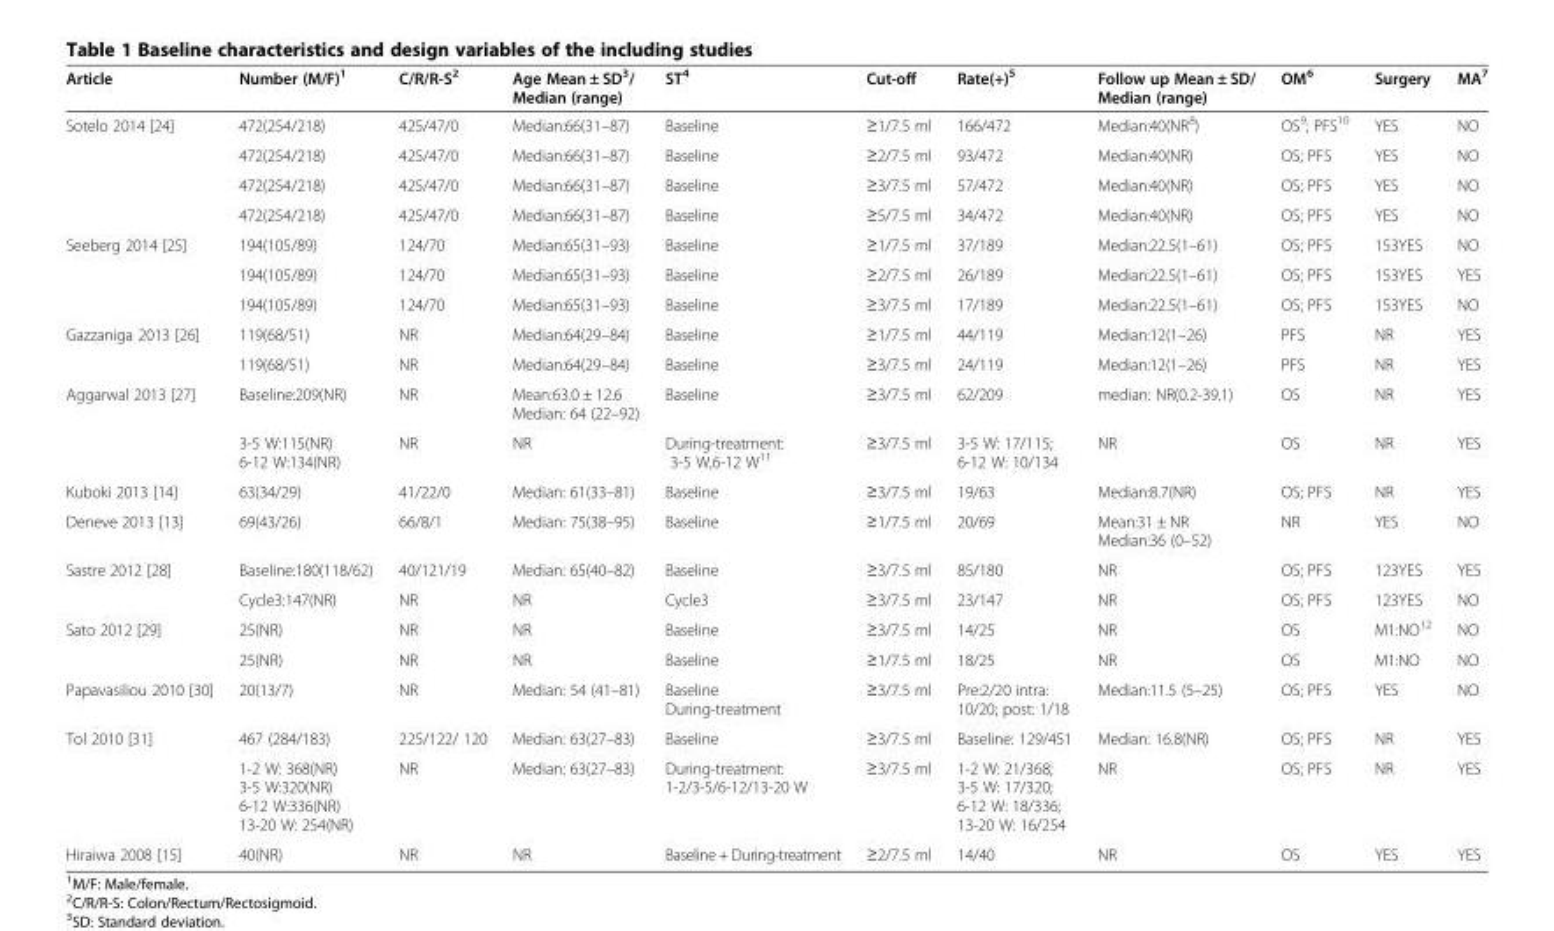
<table><thead><tr><td>Article</td><td>Number (M/F)<sup>1</sup></td><td>C/R/R-S<sup>2</sup></td><td>Age Mean ± SD<sup>3</sup>/ Median (range)</td><td>ST<sup>4</sup></td><td>Cut-off</td><td>Rate(+)<sup>5</sup></td><td>Follow up Mean ± SD/ Median (range)</td><td>OM<sup>6</sup></td><td>Surgery</td><td>MA<sup>7</sup></td></tr></thead><tbody><tr><td rowspan="4">Sotelo 2014 [24]</td><td>472(254/218)</td><td>425/47/0</td><td>Median:66(31–87)</td><td>Baseline</td><td>≥1/7.5 ml</td><td>166/472</td><td>Median:40(NR<sup>8</sup>)</td><td>OS<sup>9</sup>; PFS<sup>10</sup></td><td>YES</td><td>NO</td></tr><tr><td>472(254/218)</td><td>425/47/0</td><td>Median:66(31–87)</td><td>Baseline</td><td>≥2/7.5 ml</td><td>93/472</td><td>Median:40(NR)</td><td>OS; PFS</td><td>YES</td><td>NO</td></tr><tr><td>472(254/218)</td><td>425/47/0</td><td>Median:66(31–87)</td><td>Baseline</td><td>≥3/7.5 ml</td><td>57/472</td><td>Median:40(NR)</td><td>OS; PFS</td><td>YES</td><td>NO</td></tr><tr><td>472(254/218)</td><td>425/47/0</td><td>Median:66(31–87)</td><td>Baseline</td><td>≥5/7.5 ml</td><td>34/472</td><td>Median:40(NR)</td><td>OS; PFS</td><td>YES</td><td>NO</td></tr><tr><td rowspan="3">Seeberg 2014 [25]</td><td>194(105/89)</td><td>124/70</td><td>Median:65(31–93)</td><td>Baseline</td><td>≥1/7.5 ml</td><td>37/189</td><td>Median:22.5(1–61)</td><td>OS; PFS</td><td>153YES</td><td>NO</td></tr><tr><td>194(105/89)</td><td>124/70</td><td>Median:65(31–93)</td><td>Baseline</td><td>≥2/7.5 ml</td><td>26/189</td><td>Median:22.5(1–61)</td><td>OS; PFS</td><td>153YES</td><td>YES</td></tr><tr><td>194(105/89)</td><td>124/70</td><td>Median:65(31–93)</td><td>Baseline</td><td>≥3/7.5 ml</td><td>17/189</td><td>Median:22.5(1–61)</td><td>OS; PFS</td><td>153YES</td><td>NO</td></tr><tr><td rowspan="2">Gazzaniga 2013 [26]</td><td>119(68/51)</td><td>NR</td><td>Median:64(29–84)</td><td>Baseline</td><td>≥1/7.5 ml</td><td>44/119</td><td>Median:12(1–26)</td><td>PFS</td><td>NR</td><td>YES</td></tr><tr><td>119(68/51)</td><td>NR</td><td>Median:64(29–84)</td><td>Baseline</td><td>≥3/7.5 ml</td><td>24/119</td><td>Median:12(1–26)</td><td>PFS</td><td>NR</td><td>YES</td></tr><tr><td rowspan="2">Aggarwal 2013 [27]</td><td>Baseline:209(NR)</td><td>NR</td><td>Mean:63.0 ± 12.6 Median: 64 (22–92)</td><td>Baseline</td><td>≥3/7.5 ml</td><td>62/209</td><td>median: NR(0.2-39.1)</td><td>OS</td><td>NR</td><td>YES</td></tr><tr><td>3-5 W:115(NR) 6-12 W:134(NR)</td><td>NR</td><td>NR</td><td>During-treatment: 3-5 W,6-12 W<sup>11</sup></td><td>≥3/7.5 ml</td><td>3-5 W: 17/115; 6-12 W: 10/134</td><td>NR</td><td>OS</td><td>NR</td><td>YES</td></tr><tr><td>Kuboki 2013 [14]</td><td>63(34/29)</td><td>41/22/0</td><td>Median: 61(33–81)</td><td>Baseline</td><td>≥3/7.5 ml</td><td>19/63</td><td>Median:8.7(NR)</td><td>OS; PFS</td><td>NR</td><td>YES</td></tr><tr><td>Deneve 2013 [13]</td><td>69(43/26)</td><td>66/8/1</td><td>Median: 75(38–95)</td><td>Baseline</td><td>≥1/7.5 ml</td><td>20/69</td><td>Mean:31 ± NR Median:36 (0–52)</td><td>NR</td><td>YES</td><td>NO</td></tr><tr><td rowspan="2">Sastre 2012 [28]</td><td>Baseline:180(118/62)</td><td>40/121/19</td><td>Median: 65(40–82)</td><td>Baseline</td><td>≥3/7.5 ml</td><td>85/180</td><td>NR</td><td>OS; PFS</td><td>123YES</td><td>YES</td></tr><tr><td>Cycle3:147(NR)</td><td>NR</td><td>NR</td><td>Cycle3</td><td>≥3/7.5 ml</td><td>23/147</td><td>NR</td><td>OS; PFS</td><td>123YES</td><td>NO</td></tr><tr><td rowspan="2">Sato 2012 [29]</td><td>25(NR)</td><td>NR</td><td>NR</td><td>Baseline</td><td>≥3/7.5 ml</td><td>14/25</td><td>NR</td><td>OS</td><td>M1:NO<sup>12</sup></td><td>NO</td></tr><tr><td>25(NR)</td><td>NR</td><td>NR</td><td>Baseline</td><td>≥1/7.5 ml</td><td>18/25</td><td>NR</td><td>OS</td><td>M1:NO</td><td>NO</td></tr><tr><td>Papavasiliou 2010 [30]</td><td>20(13/7)</td><td>NR</td><td>Median: 54 (41–81)</td><td>Baseline During-treatment</td><td>≥3/7.5 ml</td><td>Pre:2/20 intra: 10/20; post: 1/18</td><td>Median:11.5 (5–25)</td><td>OS; PFS</td><td>YES</td><td>NO</td></tr><tr><td rowspan="2">Tol 2010 [31]</td><td>467 (284/183)</td><td>225/122/ 120</td><td>Median: 63(27–83)</td><td>Baseline</td><td>≥3/7.5 ml</td><td>Baseline: 129/451</td><td>Median: 16.8(NR)</td><td>OS; PFS</td><td>NR</td><td>YES</td></tr><tr><td>1-2 W: 368(NR) 3-5 W:320(NR) 6-12 W:336(NR) 13-20 W: 254(NR)</td><td>NR</td><td>Median: 63(27–83)</td><td>During-treatment: 1-2/3-5/6-12/13-20 W</td><td>≥3/7.5 ml</td><td>1-2 W: 21/368; 3-5 W: 17/320; 6-12 W: 18/336; 13-20 W: 16/254</td><td>NR</td><td>OS; PFS</td><td>NR</td><td>YES</td></tr><tr><td>Hiraiwa 2008 [15]</td><td>40(NR)</td><td>NR</td><td>NR</td><td>Baseline + During-treatment</td><td>≥2/7.5 ml</td><td>14/40</td><td>NR</td><td>OS</td><td>YES</td><td>YES</td></tr></tbody></table>